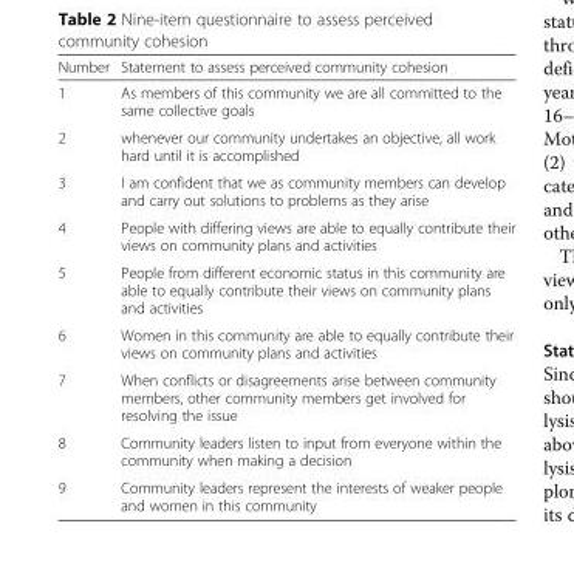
<table><thead><tr><td>Number</td><td>Statement to assess perceived community cohesion</td></tr></thead><tbody><tr><td>1</td><td>As members of this community we are all committed to the same collective goals</td></tr><tr><td>2</td><td>whenever our community undertakes an objective, all work hard until it is accomplished</td></tr><tr><td>3</td><td>I am confident that we as community members can develop and carry out solutions to problems as they arise</td></tr><tr><td>4</td><td>People with differing views are able to equally contribute their views on community plans and activities</td></tr><tr><td>5</td><td>People from different economic status in this community are able to equally contribute their views on community plans and activities</td></tr><tr><td>6</td><td>Women in this community are able to equally contribute their views on community plans and activities</td></tr><tr><td>7</td><td>When conflicts or disagreements arise between community members, other community members get involved for resolving the issue</td></tr><tr><td>8</td><td>Community leaders listen to input from everyone within the community when making a decision</td></tr><tr><td>9</td><td>Community leaders represent the interests of weaker people and women in this community</td></tr></tbody></table>